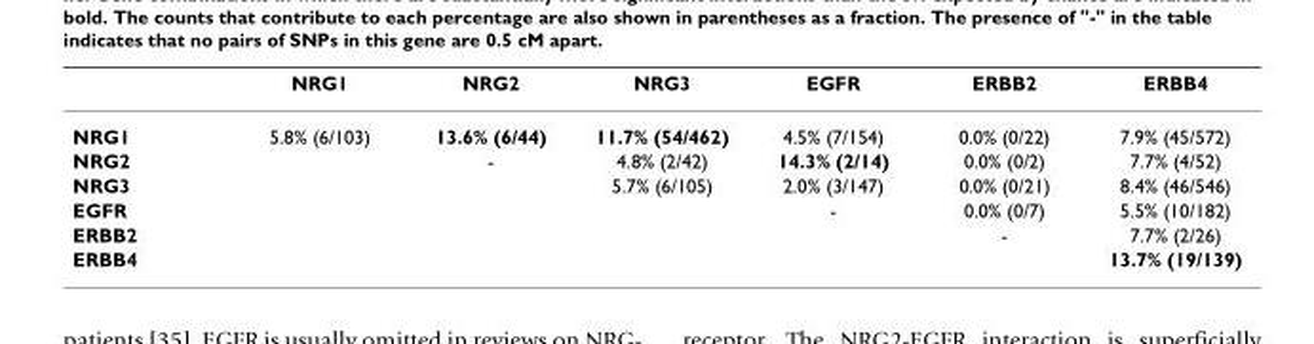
<table><thead><tr><td></td><td>NRG1</td><td>NRG2</td><td>NRG3</td><td>EGFR</td><td>ERBB2</td><td>ERBB4</td></tr></thead><tbody><tr><td>NRG1</td><td>5.8% (6/103)</td><td>13.6% (6/44)</td><td>11.7% (54/462)</td><td>4.5% (7/154)</td><td>0.0% (0/22)</td><td>7.9% (45/572)</td></tr><tr><td>NRG2</td><td></td><td>-</td><td>4.8% (2/42)</td><td>14.3% (2/14)</td><td>0.0% (0/2)</td><td>7.7% (4/52)</td></tr><tr><td>NRG3</td><td></td><td></td><td>5.7% (6/105)</td><td>2.0% (3/147)</td><td>0.0% (0/21)</td><td>8.4% (46/546)</td></tr><tr><td>EGFR</td><td></td><td></td><td></td><td>-</td><td>0.0% (0/7)</td><td>5.5% (10/182)</td></tr><tr><td>ERBB2</td><td></td><td></td><td></td><td></td><td>-</td><td>7.7% (2/26)</td></tr><tr><td>ERBB4</td><td></td><td></td><td></td><td></td><td></td><td>13.7% (19/139)</td></tr></tbody></table>